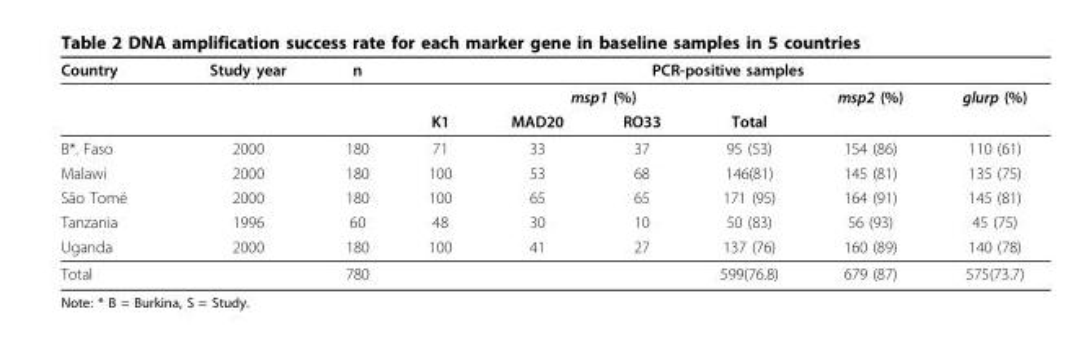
<table><thead><tr><td rowspan="3">Country</td><td rowspan="3">Study year</td><td rowspan="3">n</td><td colspan="6">PCR-positive samples</td></tr><tr><td colspan="4">msp1 (%)</td><td rowspan="2">msp2 (%)</td><td rowspan="2">glurp (%)</td></tr><tr><td>K1</td><td>MAD20</td><td>RO33</td><td>Total</td></tr></thead><tbody><tr><td>B*. Faso</td><td>2000</td><td>180</td><td>71</td><td>33</td><td>37</td><td>95 (53)</td><td>154 (86)</td><td>110 (61)</td></tr><tr><td>Malawi</td><td>2000</td><td>180</td><td>100</td><td>53</td><td>68</td><td>146(81)</td><td>145 (81)</td><td>135 (75)</td></tr><tr><td>São Tomé</td><td>2000</td><td>180</td><td>100</td><td>65</td><td>65</td><td>171 (95)</td><td>164 (91)</td><td>145 (81)</td></tr><tr><td>Tanzania</td><td>1996</td><td>60</td><td>48</td><td>30</td><td>10</td><td>50 (83)</td><td>56 (93)</td><td>45 (75)</td></tr><tr><td>Uganda</td><td>2000</td><td>180</td><td>100</td><td>41</td><td>27</td><td>137 (76)</td><td>160 (89)</td><td>140 (78)</td></tr><tr><td>Total</td><td></td><td>780</td><td></td><td></td><td></td><td>599(76.8)</td><td>679 (87)</td><td>575(73.7)</td></tr></tbody></table>